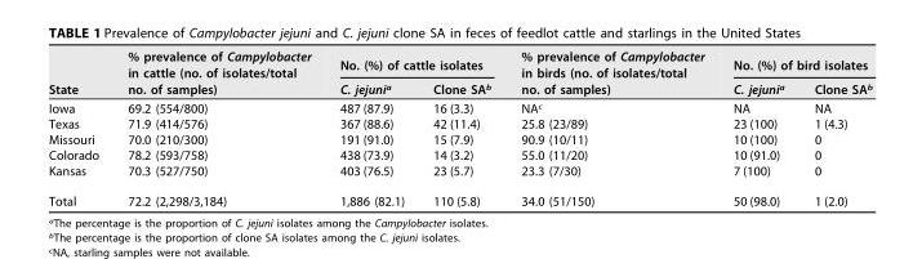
<table><thead><tr><td rowspan="2">State</td><td rowspan="2">% prevalence of Campylobacter in cattle (no. of isolates/total no. of samples)</td><td colspan="2">No. (%) of cattle isolates</td><td rowspan="2">% prevalence of Campylobacter in birds (no. of isolates/total no. of samples)</td><td colspan="2">No. (%) of bird isolates</td></tr><tr><td>C. jejuni<sup>a</sup></td><td>Clone SA<sup>b</sup></td><td>C. jejuni<sup>a</sup></td><td>Clone SA<sup>b</sup></td></tr></thead><tbody><tr><td>Iowa</td><td>69.2 (554/800)</td><td>487 (87.9)</td><td>16 (3.3)</td><td>NA<sup>c</sup></td><td>NA</td><td>NA</td></tr><tr><td>Texas</td><td>71.9 (414/576)</td><td>367 (88.6)</td><td>42 (11.4)</td><td>25.8 (23/89)</td><td>23 (100)</td><td>1 (4.3)</td></tr><tr><td>Missouri</td><td>70.0 (210/300)</td><td>191 (91.0)</td><td>15 (7.9)</td><td>90.9 (10/11)</td><td>10 (100)</td><td>0</td></tr><tr><td>Colorado</td><td>78.2 (593/758)</td><td>438 (73.9)</td><td>14 (3.2)</td><td>55.0 (11/20)</td><td>10 (91.0)</td><td>0</td></tr><tr><td>Kansas</td><td>70.3 (527/750)</td><td>403 (76.5)</td><td>23 (5.7)</td><td>23.3 (7/30)</td><td>7 (100)</td><td>0</td></tr><tr><td>Total</td><td>72.2 (2,298/3,184)</td><td>1,886 (82.1)</td><td>110 (5.8)</td><td>34.0 (51/150)</td><td>50 (98.0)</td><td>1 (2.0)</td></tr></tbody></table>